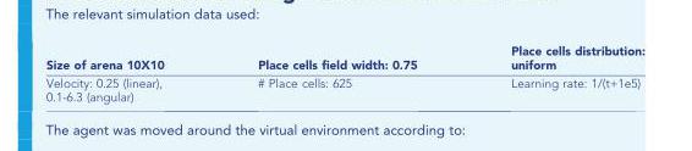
<table><thead><tr><td>Size of arena 10X10</td><td>Place cells field width: 0.75</td><td>Place cells distribution: uniform</td></tr></thead><tbody><tr><td>Velocity: 0.25 (linear), 0.1-6.3 (angular)</td><td># Place cells: 625</td><td>Learning rate: 1/(t+1e5)</td></tr></tbody></table>